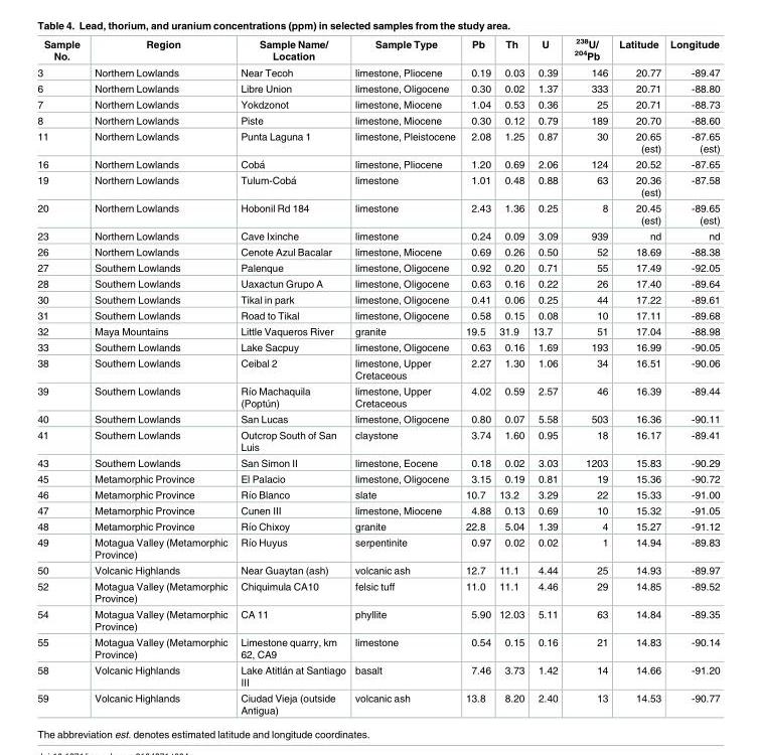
<table><thead><tr><td>Sample No.</td><td>Region</td><td>Sample Name/ Location</td><td>Sample Type</td><td>Pb</td><td>Th</td><td>U</td><td><sup>238</sup>U/ <sup>204</sup>Pb</td><td>Latitude</td><td>Longitude</td></tr></thead><tbody><tr><td>3</td><td>Northern Lowlands</td><td>Near Tecoh</td><td>limestone, Pliocene</td><td>0.19</td><td>0.03</td><td>0.39</td><td>146</td><td>20.77</td><td>-89.47</td></tr><tr><td>6</td><td>Northern Lowlands</td><td>Libre Union</td><td>limestone, Oligocene</td><td>0.30</td><td>0.02</td><td>1.37</td><td>333</td><td>20.71</td><td>-88.80</td></tr><tr><td>7</td><td>Northern Lowlands</td><td>Yokdzonot</td><td>limestone, Miocene</td><td>1.04</td><td>0.53</td><td>0.36</td><td>25</td><td>20.71</td><td>-88.73</td></tr><tr><td>8</td><td>Northern Lowlands</td><td>Piste</td><td>limestone, Miocene</td><td>0.30</td><td>0.12</td><td>0.79</td><td>189</td><td>20.70</td><td>-88.60</td></tr><tr><td>11</td><td>Northern Lowlands</td><td>Punta Laguna 1</td><td>limestone, Pleistocene</td><td>2.08</td><td>1.25</td><td>0.87</td><td>30</td><td>20.65 (est)</td><td>-87.65 (est)</td></tr><tr><td>16</td><td>Northern Lowlands</td><td>Coba´</td><td>limestone, Pliocene</td><td>1.20</td><td>0.69</td><td>2.06</td><td>124</td><td>20.52</td><td>-87.65</td></tr><tr><td>19</td><td>Northern Lowlands</td><td>Tulum-Coba´</td><td>limestone</td><td>1.01</td><td>0.48</td><td>0.88</td><td>63</td><td>20.36 (est)</td><td>-87.58</td></tr><tr><td>20</td><td>Northern Lowlands</td><td>Hobonil Rd 184</td><td>limestone</td><td>2.43</td><td>1.36</td><td>0.25</td><td>8</td><td>20.45 (est)</td><td>-89.65 (est)</td></tr><tr><td>23</td><td>Northern Lowlands</td><td>Cave Ixinche</td><td>limestone</td><td>0.24</td><td>0.09</td><td>3.09</td><td>939</td><td>nd</td><td>nd</td></tr><tr><td>26</td><td>Northern Lowlands</td><td>Cenote Azul Bacalar</td><td>limestone, Miocene</td><td>0.69</td><td>0.26</td><td>0.50</td><td>52</td><td>18.69</td><td>-88.38</td></tr><tr><td>27</td><td>Southern Lowlands</td><td>Palenque</td><td>limestone, Oligocene</td><td>0.92</td><td>0.20</td><td>0.71</td><td>55</td><td>17.49</td><td>-92.05</td></tr><tr><td>28</td><td>Southern Lowlands</td><td>Uaxactun Grupo A</td><td>limestone, Oligocene</td><td>0.63</td><td>0.16</td><td>0.22</td><td>26</td><td>17.40</td><td>-89.64</td></tr><tr><td>30</td><td>Southern Lowlands</td><td>Tikal in park</td><td>limestone, Oligocene</td><td>0.41</td><td>0.06</td><td>0.25</td><td>44</td><td>17.22</td><td>-89.61</td></tr><tr><td>31</td><td>Southern Lowlands</td><td>Road to Tikal</td><td>limestone, Oligocene</td><td>0.58</td><td>0.15</td><td>0.08</td><td>10</td><td>17.11</td><td>-89.68</td></tr><tr><td>32</td><td>Maya Mountains</td><td>Little Vaqueros River</td><td>granite</td><td>19.5</td><td>31.9</td><td>13.7</td><td>51</td><td>17.04</td><td>-88.98</td></tr><tr><td>33</td><td>Southern Lowlands</td><td>Lake Sacpuy</td><td>limestone, Oligocene</td><td>0.63</td><td>0.16</td><td>1.69</td><td>193</td><td>16.99</td><td>-90.05</td></tr><tr><td>38</td><td>Southern Lowlands</td><td>Ceibal 2</td><td>limestone, Upper Cretaceous</td><td>2.27</td><td>1.30</td><td>1.06</td><td>34</td><td>16.51</td><td>-90.06</td></tr><tr><td>39</td><td>Southern Lowlands</td><td>Rı´o Machaquila (Poptu´n)</td><td>limestone, Upper Cretaceous</td><td>4.02</td><td>0.59</td><td>2.57</td><td>46</td><td>16.39</td><td>-89.44</td></tr><tr><td>40</td><td>Southern Lowlands</td><td>San Lucas</td><td>limestone, Oligocene</td><td>0.80</td><td>0.07</td><td>5.58</td><td>503</td><td>16.36</td><td>-90.11</td></tr><tr><td>41</td><td>Southern Lowlands</td><td>Outcrop South of San Luis</td><td>claystone</td><td>3.74</td><td>1.60</td><td>0.95</td><td>18</td><td>16.17</td><td>-89.41</td></tr><tr><td>43</td><td>Southern Lowlands</td><td>San Simon II</td><td>limestone, Eocene</td><td>0.18</td><td>0.02</td><td>3.03</td><td>1203</td><td>15.83</td><td>-90.29</td></tr><tr><td>45</td><td>Metamorphic Province</td><td>El Palacio</td><td>limestone, Oligocene</td><td>3.15</td><td>0.19</td><td>0.81</td><td>19</td><td>15.36</td><td>-90.72</td></tr><tr><td>46</td><td>Metamorphic Province</td><td>Rı´o Blanco</td><td>slate</td><td>10.7</td><td>13.2</td><td>3.29</td><td>22</td><td>15.33</td><td>-91.00</td></tr><tr><td>47</td><td>Metamorphic Province</td><td>Cunen III</td><td>limestone, Miocene</td><td>4.88</td><td>0.13</td><td>0.69</td><td>10</td><td>15.32</td><td>-91.05</td></tr><tr><td>48</td><td>Metamorphic Province</td><td>Rı´o Chixoy</td><td>granite</td><td>22.8</td><td>5.04</td><td>1.39</td><td>4</td><td>15.27</td><td>-91.12</td></tr><tr><td>49</td><td>Motagua Valley (Metamorphic Province)</td><td>Rı´o Huyus</td><td>serpentinite</td><td>0.97</td><td>0.02</td><td>0.02</td><td>1</td><td>14.94</td><td>-89.83</td></tr><tr><td>50</td><td>Volcanic Highlands</td><td>Near Guaytan (ash)</td><td>volcanic ash</td><td>12.7</td><td>11.1</td><td>4.44</td><td>25</td><td>14.93</td><td>-89.97</td></tr><tr><td>52</td><td>Motagua Valley (Metamorphic Province)</td><td>Chiquimula CA10</td><td>felsic tuff</td><td>11.0</td><td>11.1</td><td>4.46</td><td>29</td><td>14.85</td><td>-89.52</td></tr><tr><td>54</td><td>Motagua Valley (Metamorphic Province)</td><td>CA 11</td><td>phyllite</td><td>5.90</td><td>12.03</td><td>5.11</td><td>63</td><td>14.84</td><td>-89.35</td></tr><tr><td>55</td><td>Motagua Valley (Metamorphic Province)</td><td>Limestone quarry, km 62, CA9</td><td>limestone</td><td>0.54</td><td>0.15</td><td>0.16</td><td>21</td><td>14.83</td><td>-90.14</td></tr><tr><td>58</td><td>Volcanic Highlands</td><td>Lake Atitla´n at Santiago III</td><td>basalt</td><td>7.46</td><td>3.73</td><td>1.42</td><td>14</td><td>14.66</td><td>-91.20</td></tr><tr><td>59</td><td>Volcanic Highlands</td><td>Ciudad Vieja (outside Antigua)</td><td>volcanic ash</td><td>13.8</td><td>8.20</td><td>2.40</td><td>13</td><td>14.53</td><td>-90.77</td></tr></tbody></table>